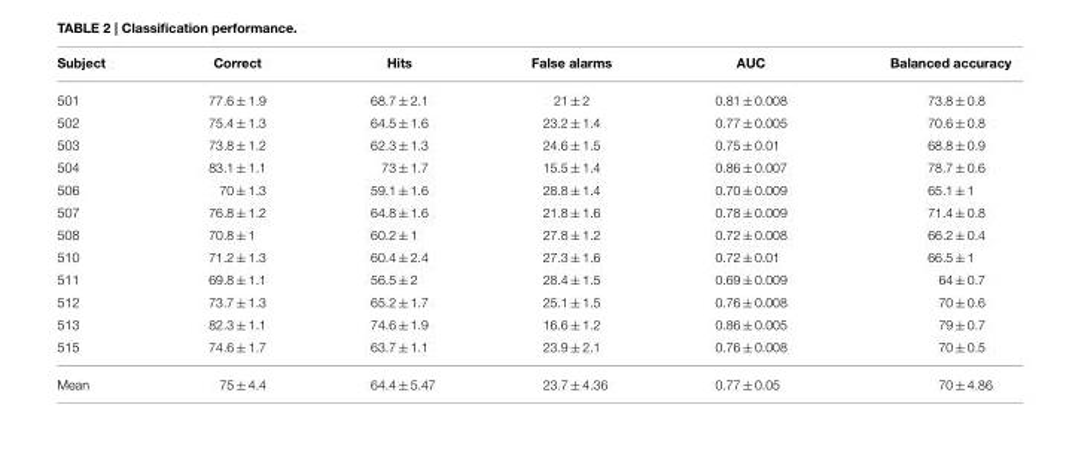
<table><thead><tr><td>Subject</td><td>Correct</td><td>Hits</td><td>False alarms</td><td>AUC</td><td>Balanced accuracy</td></tr></thead><tbody><tr><td>501</td><td>77.6 ± 1.9</td><td>68.7 ± 2.1</td><td>21 ± 2</td><td>0.81 ± 0.008</td><td>73.8 ± 0.8</td></tr><tr><td>502</td><td>75.4 ± 1.3</td><td>64.5 ± 1.6</td><td>23.2 ± 1.4</td><td>0.77 ± 0.005</td><td>70.6 ± 0.8</td></tr><tr><td>503</td><td>73.8 ± 1.2</td><td>62.3 ± 1.3</td><td>24.6 ± 1.5</td><td>0.75 ± 0.01</td><td>68.8 ± 0.9</td></tr><tr><td>504</td><td>83.1 ± 1.1</td><td>73 ± 1.7</td><td>15.5 ± 1.4</td><td>0.86 ± 0.007</td><td>78.7 ± 0.6</td></tr><tr><td>506</td><td>70 ± 1.3</td><td>59.1 ± 1.6</td><td>28.8 ± 1.4</td><td>0.70 ± 0.009</td><td>65.1 ± 1</td></tr><tr><td>507</td><td>76.8 ± 1.2</td><td>64.8 ± 1.6</td><td>21.8 ± 1.6</td><td>0.78 ± 0.009</td><td>71.4 ± 0.8</td></tr><tr><td>508</td><td>70.8 ± 1</td><td>60.2 ± 1</td><td>27.8 ± 1.2</td><td>0.72 ± 0.008</td><td>66.2 ± 0.4</td></tr><tr><td>510</td><td>71.2 ± 1.3</td><td>60.4 ± 2.4</td><td>27.3 ± 1.6</td><td>0.72 ± 0.01</td><td>66.5 ± 1</td></tr><tr><td>511</td><td>69.8 ± 1.1</td><td>56.5 ± 2</td><td>28.4 ± 1.5</td><td>0.69 ± 0.009</td><td>64 ± 0.7</td></tr><tr><td>512</td><td>73.7 ± 1.3</td><td>65.2 ± 1.7</td><td>25.1 ± 1.5</td><td>0.76 ± 0.008</td><td>70 ± 0.6</td></tr><tr><td>513</td><td>82.3 ± 1.1</td><td>74.6 ± 1.9</td><td>16.6 ± 1.2</td><td>0.86 ± 0.005</td><td>79 ± 0.7</td></tr><tr><td>515</td><td>74.6 ± 1.7</td><td>63.7 ± 1.1</td><td>23.9 ± 2.1</td><td>0.76 ± 0.008</td><td>70 ± 0.5</td></tr><tr><td>Mean</td><td>75 ± 4.4</td><td>64.4 ± 5.47</td><td>23.7 ± 4.36</td><td>0.77 ± 0.05</td><td>70 ± 4.86</td></tr></tbody></table>